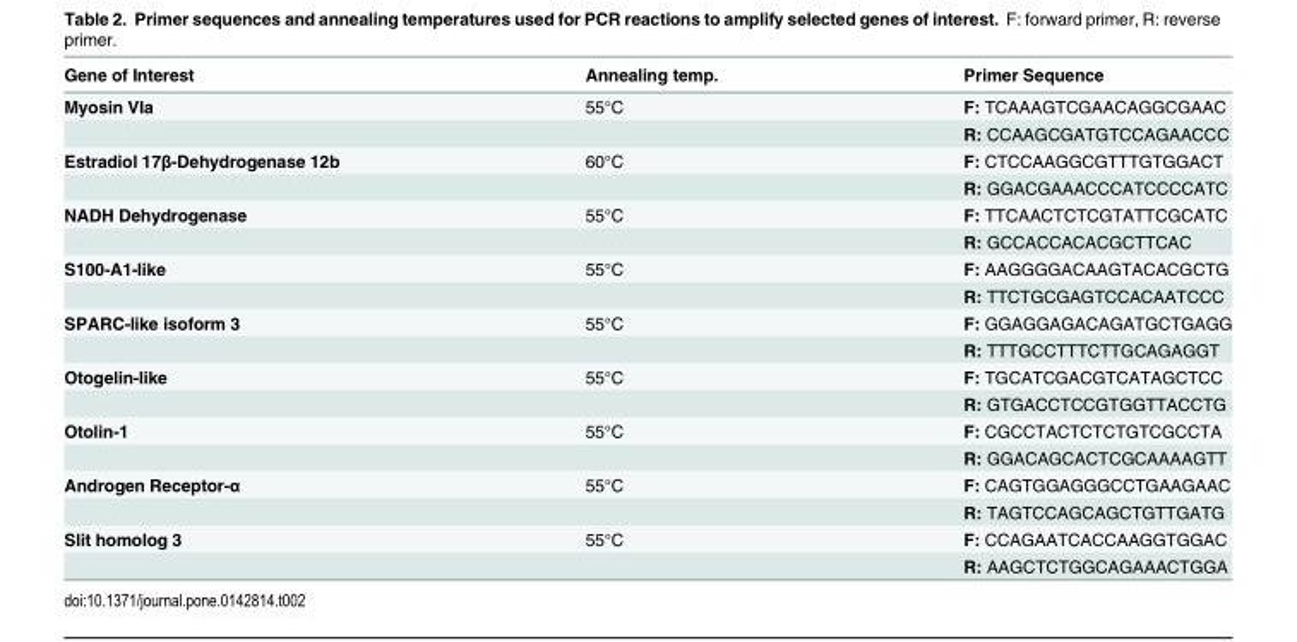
<table><thead><tr><td>Gene of Interest</td><td>Annealing temp.</td><td>Primer Sequence</td></tr></thead><tbody><tr><td rowspan="2">Myosin VIa</td><td>55°C</td><td>F: TCAAAGTCGAACAGGCGAAC</td></tr><tr><td></td><td>R: CCAAGCGATGTCCAGAACCC</td></tr><tr><td rowspan="2">Estradiol 17β-Dehydrogenase 12b</td><td>60°C</td><td>F: CTCCAAGGCGTTTGTGGACT</td></tr><tr><td></td><td>R: GGACGAAACCCATCCCCATC</td></tr><tr><td rowspan="2">NADH Dehydrogenase</td><td>55°C</td><td>F: TTCAACTCTCGTATTCGCATC</td></tr><tr><td></td><td>R: GCCACCACACGCTTCAC</td></tr><tr><td rowspan="2">S100-A1-like</td><td>55°C</td><td>F: AAGGGGACAAGTACACGCTG</td></tr><tr><td></td><td>R: TTCTGCGAGTCCACAATCCC</td></tr><tr><td rowspan="2">SPARC-like isoform 3</td><td>55°C</td><td>F: GGAGGAGACAGATGCTGAGG</td></tr><tr><td></td><td>R: TTTGCCTTTCTTGCAGAGGT</td></tr><tr><td rowspan="2">Otogelin-like</td><td>55°C</td><td>F: TGCATCGACGTCATAGCTCC</td></tr><tr><td></td><td>R: GTGACCTCCGTGGTTACCTG</td></tr><tr><td rowspan="2">Otolin-1</td><td>55°C</td><td>F: CGCCTACTCTCTGTCGCCTA</td></tr><tr><td></td><td>R: GGACAGCACTCGCAAAAGTT</td></tr><tr><td rowspan="2">Androgen Receptor-α</td><td>55°C</td><td>F: CAGTGGAGGGCCTGAAGAAC</td></tr><tr><td></td><td>R: TAGTCCAGCAGCTGTTGATG</td></tr><tr><td rowspan="2">Slit homolog 3</td><td>55°C</td><td>F: CCAGAATCACCAAGGTGGAC</td></tr><tr><td></td><td>R: AAGCTCTGGCAGAAACTGGA</td></tr></tbody></table>